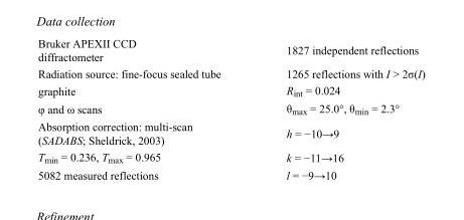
<table><tbody><tr><td>Bruker APEXII CCD diffractometer</td><td>1827 independent reflections</td></tr><tr><td>Radiation source: fine-focus sealed tube</td><td>1265 reflections with I &gt; 2σ(I)</td></tr><tr><td>graphite</td><td>R<sub>int</sub> = 0.024</td></tr><tr><td>φ and ω scans</td><td>θ<sub>max</sub> = 25.0°, θ<sub>min</sub> = 2.3°</td></tr><tr><td>Absorption correction: multi-scan (SADABS; Sheldrick, 2003)</td><td>h = −10→9</td></tr><tr><td>T<sub>min</sub> = 0.236, T<sub>max</sub> = 0.965</td><td>k = −11→16</td></tr><tr><td>5082 measured reflections</td><td>l = −9→10</td></tr></tbody></table>